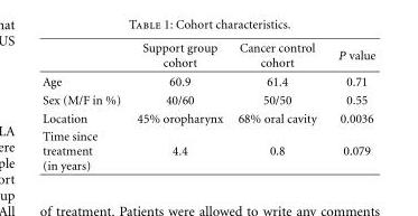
<table><thead><tr><td></td><td>Support group cohort</td><td>Cancer control cohort</td><td>P value</td></tr></thead><tbody><tr><td>Age</td><td>60.9</td><td>61.4</td><td>0.71</td></tr><tr><td>Sex (M/F in %)</td><td>40/60</td><td>50/50</td><td>0.55</td></tr><tr><td>Location</td><td>45% oropharynx</td><td>68% oral cavity</td><td>0.0036</td></tr><tr><td>Time since treatment (in years)</td><td>4.4</td><td>0.8</td><td>0.079</td></tr></tbody></table>